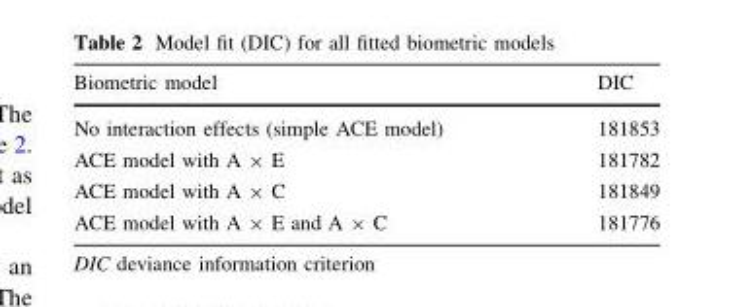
<table><thead><tr><td>Biometric model</td><td>DIC</td></tr></thead><tbody><tr><td>No interaction effects (simple ACE model)</td><td>181853</td></tr><tr><td>ACE model with A × E</td><td>181782</td></tr><tr><td>ACE model with A × C</td><td>181849</td></tr><tr><td>ACE model with A × E and A × C</td><td>181776</td></tr></tbody></table>